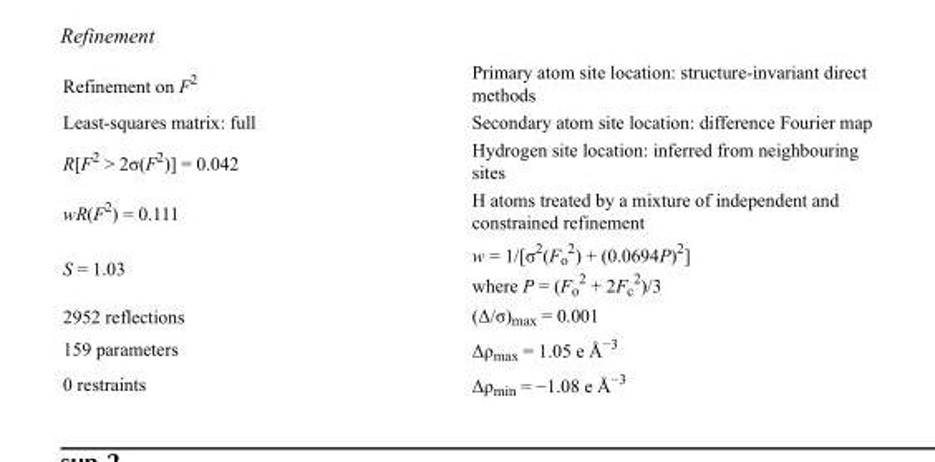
<table><tbody><tr><td>Refinement on F<sup>2</sup></td><td>Primary atom site location: structure-invariant direct methods</td></tr><tr><td>Least-squares matrix: full</td><td>Secondary atom site location: difference Fourier map</td></tr><tr><td>R[F<sup>2</sup> &gt; 2σ(F<sup>2</sup>)] = 0.042</td><td>Hydrogen site location: inferred from neighbouring sites</td></tr><tr><td>wR(F<sup>2</sup>) = 0.111</td><td>H atoms treated by a mixture of independent and constrained refinement</td></tr><tr><td>S = 1.03</td><td>w = 1/[σ<sup>2</sup>(F<sub>o</sub> <sup>2</sup>) + (0.0694P)<sup>2</sup>] where P = (F<sub>o</sub> <sup>2</sup> + 2F<sub>c</sub> <sup>2</sup>)/3</td></tr><tr><td>2952 reflections</td><td>(Δ/σ)<sub>max</sub> = 0.001</td></tr><tr><td>159 parameters</td><td>Δρ<sub>max</sub> = 1.05 e Å<sup>−3</sup></td></tr><tr><td>0 restraints</td><td>Δρmin = −1.08 e Å−3</td></tr></tbody></table>